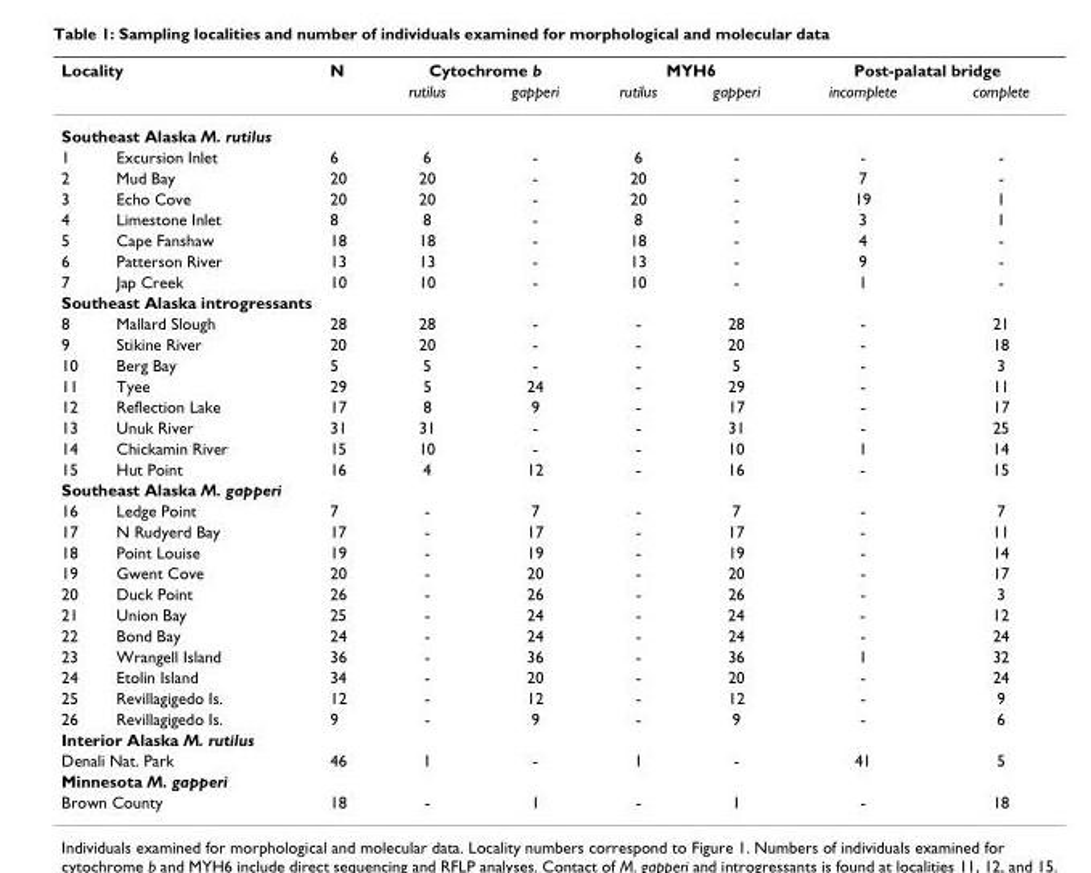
<table><thead><tr><td colspan="2">Locality</td><td rowspan="2">N</td><td colspan="2">Cytochrome b</td><td colspan="2">MYH6</td><td colspan="2">Post-palatal bridge</td></tr><tr><td></td><td></td><td>rutilus</td><td>gapperi</td><td>rutilus</td><td>gapperi</td><td>incomplete</td><td>complete</td></tr></thead><tbody><tr><td colspan="9">Southeast Alaska M. rutilus</td></tr><tr><td>1</td><td>Excursion Inlet</td><td>6</td><td>6</td><td>-</td><td>6</td><td>-</td><td>-</td><td>-</td></tr><tr><td>2</td><td>Mud Bay</td><td>20</td><td>20</td><td>-</td><td>20</td><td>-</td><td>7</td><td>-</td></tr><tr><td>3</td><td>Echo Cove</td><td>20</td><td>20</td><td>-</td><td>20</td><td>-</td><td>19</td><td>1</td></tr><tr><td>4</td><td>Limestone Inlet</td><td>8</td><td>8</td><td>-</td><td>8</td><td>-</td><td>3</td><td>1</td></tr><tr><td>5</td><td>Cape Fanshaw</td><td>18</td><td>18</td><td>-</td><td>18</td><td>-</td><td>4</td><td>-</td></tr><tr><td>6</td><td>Patterson River</td><td>13</td><td>13</td><td>-</td><td>13</td><td>-</td><td>9</td><td>-</td></tr><tr><td>7</td><td>Jap Creek</td><td>10</td><td>10</td><td>-</td><td>10</td><td>-</td><td>1</td><td>-</td></tr><tr><td colspan="9">Southeast Alaska introgressants</td></tr><tr><td>8</td><td>Mallard Slough</td><td>28</td><td>28</td><td>-</td><td>-</td><td>28</td><td>-</td><td>21</td></tr><tr><td>9</td><td>Stikine River</td><td>20</td><td>20</td><td>-</td><td>-</td><td>20</td><td>-</td><td>18</td></tr><tr><td>10</td><td>Berg Bay</td><td>5</td><td>5</td><td>-</td><td>-</td><td>5</td><td>-</td><td>3</td></tr><tr><td>11</td><td>Tyee</td><td>29</td><td>5</td><td>24</td><td>-</td><td>29</td><td>-</td><td>11</td></tr><tr><td>12</td><td>Reflection Lake</td><td>17</td><td>8</td><td>9</td><td>-</td><td>17</td><td>-</td><td>17</td></tr><tr><td>13</td><td>Unuk River</td><td>31</td><td>31</td><td>-</td><td>-</td><td>31</td><td>-</td><td>25</td></tr><tr><td>14</td><td>Chickamin River</td><td>15</td><td>10</td><td>-</td><td>-</td><td>10</td><td>1</td><td>14</td></tr><tr><td>15</td><td>Hut Point</td><td>16</td><td>4</td><td>12</td><td>-</td><td>16</td><td>-</td><td>15</td></tr><tr><td colspan="9">Southeast Alaska M. gapperi</td></tr><tr><td>16</td><td>Ledge Point</td><td>7</td><td>-</td><td>7</td><td>-</td><td>7</td><td>-</td><td>7</td></tr><tr><td>17</td><td>N Rudyerd Bay</td><td>17</td><td>-</td><td>17</td><td>-</td><td>17</td><td>-</td><td>11</td></tr><tr><td>18</td><td>Point Louise</td><td>19</td><td>-</td><td>19</td><td>-</td><td>19</td><td>-</td><td>14</td></tr><tr><td>19</td><td>Gwent Cove</td><td>20</td><td>-</td><td>20</td><td>-</td><td>20</td><td>-</td><td>17</td></tr><tr><td>20</td><td>Duck Point</td><td>26</td><td>-</td><td>26</td><td>-</td><td>26</td><td>-</td><td>3</td></tr><tr><td>21</td><td>Union Bay</td><td>25</td><td>-</td><td>24</td><td>-</td><td>24</td><td>-</td><td>12</td></tr><tr><td>22</td><td>Bond Bay</td><td>24</td><td>-</td><td>24</td><td>-</td><td>24</td><td>-</td><td>24</td></tr><tr><td>23</td><td>Wrangell Island</td><td>36</td><td>-</td><td>36</td><td>-</td><td>36</td><td>1</td><td>32</td></tr><tr><td>24</td><td>Etolin Island</td><td>34</td><td>-</td><td>20</td><td>-</td><td>20</td><td>-</td><td>24</td></tr><tr><td>25</td><td>Revillagigedo Is.</td><td>12</td><td>-</td><td>12</td><td>-</td><td>12</td><td>-</td><td>9</td></tr><tr><td>26</td><td>Revillagigedo Is.</td><td>9</td><td>-</td><td>9</td><td>-</td><td>9</td><td>-</td><td>6</td></tr><tr><td colspan="9">Interior Alaska M. rutilus</td></tr><tr><td colspan="2">Denali Nat. Park</td><td>46</td><td>1</td><td>-</td><td>1</td><td>-</td><td>41</td><td>5</td></tr><tr><td colspan="9">Minnesota M. gapperi</td></tr><tr><td colspan="2">Brown County</td><td>18</td><td>-</td><td>1</td><td>-</td><td>1</td><td>-</td><td>18</td></tr></tbody></table>